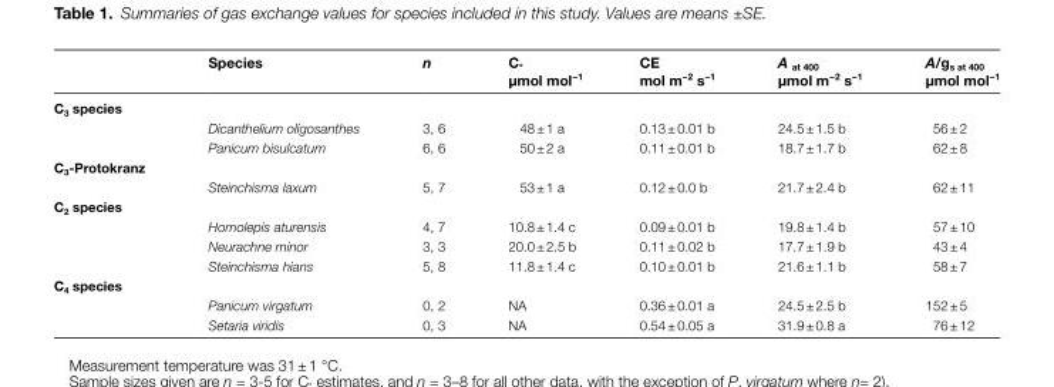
<table><thead><tr><td></td><td>Species</td><td>n</td><td>C<sub>*</sub> µmol mol<sup>−1</sup></td><td>CE mol m<sup>−2</sup> s<sup>−1</sup></td><td>A <sub>at 400</sub> µmol m<sup>−2</sup> s<sup>−1</sup></td><td>A/g<sub>s at 400</sub> µmol mol<sup>−1</sup></td></tr></thead><tbody><tr><td colspan="7">C<sub>3</sub> species</td></tr><tr><td></td><td>Dicanthelium oligosanthes</td><td>3, 6</td><td>48 ± 1 a</td><td>0.13 ± 0.01 b</td><td>24.5 ± 1.5 b</td><td>56 ± 2</td></tr><tr><td></td><td>Panicum bisulcatum</td><td>6, 6</td><td>50 ± 2 a</td><td>0.11 ± 0.01 b</td><td>18.7 ± 1.7 b</td><td>62 ± 8</td></tr><tr><td colspan="7">C<sub>3</sub>-Protokranz</td></tr><tr><td></td><td>Steinchisma laxum</td><td>5, 7</td><td>53 ± 1 a</td><td>0.12 ± 0.0 b</td><td>21.7 ± 2.4 b</td><td>62 ± 11</td></tr><tr><td colspan="7">C<sub>2</sub> species</td></tr><tr><td></td><td>Homolepis aturensis</td><td>4, 7</td><td>10.8 ± 1.4 c</td><td>0.09 ± 0.01 b</td><td>19.8 ± 1.4 b</td><td>57 ± 10</td></tr><tr><td></td><td>Neurachne minor</td><td>3, 3</td><td>20.0 ± 2.5 b</td><td>0.11 ± 0.02 b</td><td>17.7 ± 1.9 b</td><td>43 ± 4</td></tr><tr><td></td><td>Steinchisma hians</td><td>5, 8</td><td>11.8 ± 1.4 c</td><td>0.10 ± 0.01 b</td><td>21.6 ± 1.1 b</td><td>58 ± 7</td></tr><tr><td colspan="7">C<sub>4</sub> species</td></tr><tr><td></td><td>Panicum virgatum</td><td>0, 2</td><td>NA</td><td>0.36 ± 0.01 a</td><td>24.5 ± 2.5 b</td><td>152 ± 5</td></tr><tr><td></td><td>Setaria viridis</td><td>0, 3</td><td>NA</td><td>0.54 ± 0.05 a</td><td>31.9 ± 0.8 a</td><td>76 ± 12</td></tr></tbody></table>